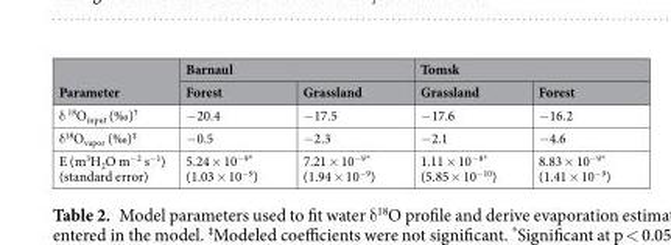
<table><thead><tr><td rowspan="2">Parameter</td><td colspan="2">Barnaul</td><td colspan="2">Tomsk</td></tr><tr><td>Forest</td><td>Grassland</td><td>Grassland</td><td>Forest</td></tr></thead><tbody><tr><td>δ <sup>18</sup>O<sub>input</sub> (‰)<sup>†</sup></td><td>−20.4</td><td>−17.5</td><td>−17.6</td><td>−16.2</td></tr><tr><td>δ<sup>18</sup>O<sub>vapor</sub> (‰)<sup>‡</sup></td><td>−0.5</td><td>−2.3</td><td>−2.1</td><td>−4.6</td></tr><tr><td>E (m<sup>3</sup>H<sub>2</sub>O m<sup>−2</sup> s<sup>−1</sup>) (standard error)</td><td>5.24 × 10<sup>−9*</sup> (1.03 × 10<sup>−9</sup>)</td><td>7.21 × 10<sup>−9*</sup> (1.94 × 10<sup>−9</sup>)</td><td>1.11 × 10<sup>−8*</sup> (5.85 × 10<sup>−10</sup>)</td><td>8.83 × 10<sup>−9*</sup> (1.41 × 10<sup>−9</sup>)</td></tr></tbody></table>